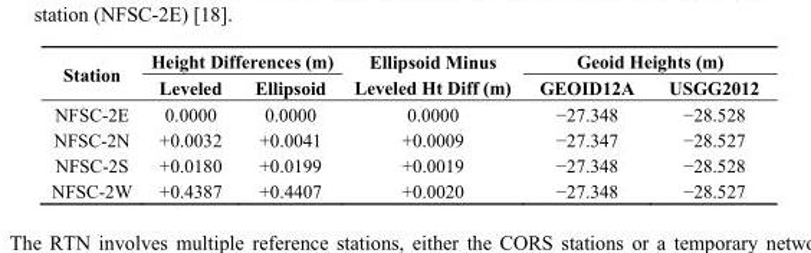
<table><thead><tr><td rowspan="2">Station</td><td colspan="2">Height Differences (m)</td><td rowspan="2">Ellipsoid Minus Leveled Ht Diff (m)</td><td colspan="2">Geoid Heights (m)</td></tr><tr><td>Leveled</td><td>Ellipsoid</td><td>GEOID12A</td><td>USGG2012</td></tr></thead><tbody><tr><td>NFSC-2E</td><td>0.0000</td><td>0.0000</td><td>0.0000</td><td>−27.348</td><td>−28.528</td></tr><tr><td>NFSC-2N</td><td>+0.0032</td><td>+0.0041</td><td>+0.0009</td><td>−27.347</td><td>−28.527</td></tr><tr><td>NFSC-2S</td><td>+0.0180</td><td>+0.0199</td><td>+0.0019</td><td>−27.348</td><td>−28.528</td></tr><tr><td>NFSC-2W</td><td>+0.4387</td><td>+0.4407</td><td>+0.0020</td><td>−27.348</td><td>−28.527</td></tr></tbody></table>